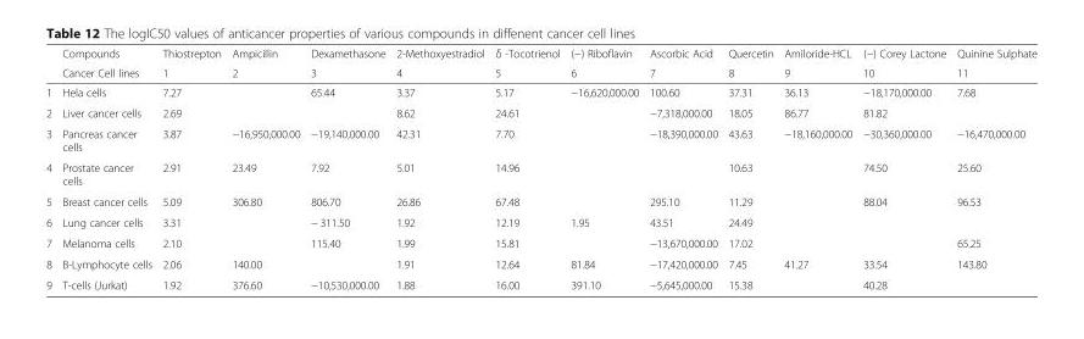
<table><thead><tr><td rowspan="2"></td><td rowspan="2">Compounds Cancer Cell lines</td><td rowspan="2">Thiostrepton 1</td><td rowspan="2">Ampicillin 2</td><td rowspan="2">Dexamethasone 3</td><td rowspan="2">2-Methoxyestradiol 4</td><td rowspan="2">δ -Tocotrienol 5</td><td rowspan="2">(−) Riboflavin 6</td><td rowspan="2">Ascorbic Acid 7</td><td rowspan="2">Quercetin 8</td><td rowspan="2">Amiloride-HCL 9</td><td rowspan="2">(−) Corey Lactone 10</td><td rowspan="2">Quinine Sulphate 11</td></tr><tr></tr></thead><tbody><tr><td>1</td><td>Hela cells</td><td>7.27</td><td></td><td>65.44</td><td>3.37</td><td>5.17</td><td>−16,620,000.00</td><td>100.60</td><td>37.31</td><td>36.13</td><td>−18,170,000.00</td><td>7.68</td></tr><tr><td>2</td><td>Liver cancer cells</td><td>2.69</td><td></td><td></td><td>8.62</td><td>24.61</td><td></td><td>−7,318,000.00</td><td>18.05</td><td>86.77</td><td>81.82</td><td></td></tr><tr><td>3</td><td>Pancreas cancer cells</td><td>3.87</td><td>−16,950,000.00</td><td>−19,140,000.00</td><td>42.31</td><td>7.70</td><td></td><td>−18,390,000.00</td><td>43.63</td><td>−18,160,000.00</td><td>−30,360,000.00</td><td>−16,470,000.00</td></tr><tr><td>4</td><td>Prostate cancer cells</td><td>2.91</td><td>23.49</td><td>7.92</td><td>5.01</td><td>14.96</td><td></td><td></td><td>10.63</td><td></td><td>74.50</td><td>25.60</td></tr><tr><td>5</td><td>Breast cancer cells</td><td>5.09</td><td>306.80</td><td>806.70</td><td>26.86</td><td>67.48</td><td></td><td>295.10</td><td>11.29</td><td></td><td>88.04</td><td>96.53</td></tr><tr><td>6</td><td>Lung cancer cells</td><td>3.31</td><td></td><td>− 311.50</td><td>1.92</td><td>12.19</td><td>1.95</td><td>43.51</td><td>24.49</td><td></td><td></td><td></td></tr><tr><td>7</td><td>Melanoma cells</td><td>2.10</td><td></td><td>115.40</td><td>1.99</td><td>15.81</td><td></td><td>−13,670,000.00</td><td>17.02</td><td></td><td></td><td>65.25</td></tr><tr><td>8</td><td>B-Lymphocyte cells</td><td>2.06</td><td>140.00</td><td></td><td>1.91</td><td>12.64</td><td>81.84</td><td>−17,420,000.00</td><td>7.45</td><td>41.27</td><td>33.54</td><td>143.80</td></tr><tr><td>9</td><td>T-cells (Jurkat)</td><td>1.92</td><td>376.60</td><td>−10,530,000.00</td><td>1.88</td><td>16.00</td><td>391.10</td><td>−5,645,000.00</td><td>15.38</td><td></td><td>40.28</td><td></td></tr></tbody></table>